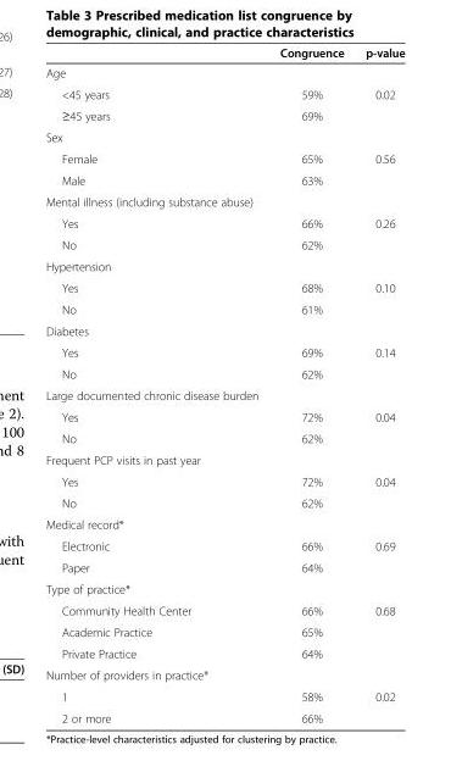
<table><thead><tr><td></td><td>Congruence</td><td>p-value</td></tr></thead><tbody><tr><td colspan="3">Age</td></tr><tr><td>&lt;45 years</td><td>59%</td><td>0.02</td></tr><tr><td>≥45 years</td><td>69%</td><td></td></tr><tr><td colspan="3">Sex</td></tr><tr><td>Female</td><td>65%</td><td>0.56</td></tr><tr><td>Male</td><td>63%</td><td></td></tr><tr><td colspan="3">Mental illness (including substance abuse)</td></tr><tr><td>Yes</td><td>66%</td><td>0.26</td></tr><tr><td>No</td><td>62%</td><td></td></tr><tr><td colspan="3">Hypertension</td></tr><tr><td>Yes</td><td>68%</td><td>0.10</td></tr><tr><td>No</td><td>61%</td><td></td></tr><tr><td colspan="3">Diabetes</td></tr><tr><td>Yes</td><td>69%</td><td>0.14</td></tr><tr><td>No</td><td>62%</td><td></td></tr><tr><td colspan="3">Large documented chronic disease burden</td></tr><tr><td>Yes</td><td>72%</td><td>0.04</td></tr><tr><td>No</td><td>62%</td><td></td></tr><tr><td colspan="3">Frequent PCP visits in past year</td></tr><tr><td>Yes</td><td>72%</td><td>0.04</td></tr><tr><td>No</td><td>62%</td><td></td></tr><tr><td colspan="3">Medical record*</td></tr><tr><td>Electronic</td><td>66%</td><td>0.69</td></tr><tr><td>Paper</td><td>64%</td><td></td></tr><tr><td colspan="3">Type of practice*</td></tr><tr><td>Community Health Center</td><td>66%</td><td>0.68</td></tr><tr><td>Academic Practice</td><td>65%</td><td></td></tr><tr><td>Private Practice</td><td>64%</td><td></td></tr><tr><td colspan="3">Number of providers in practice*</td></tr><tr><td>1</td><td>58%</td><td>0.02</td></tr><tr><td>2 or more</td><td>66%</td><td></td></tr></tbody></table>